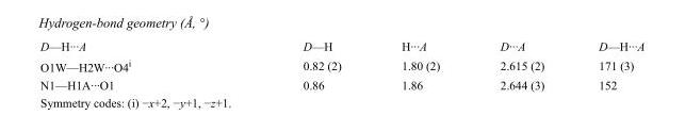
<table><tbody><tr><td>D—H···A</td><td>D—H</td><td>H···A</td><td>D···A</td><td>D—H···A</td></tr><tr><td>O1W—H2W···O4<sup>i</sup></td><td>0.82 (2)</td><td>1.80 (2)</td><td>2.615 (2)</td><td>171 (3)</td></tr><tr><td>N1—H1A···O1</td><td>0.86</td><td>1.86</td><td>2.644 (3)</td><td>152</td></tr></tbody></table>